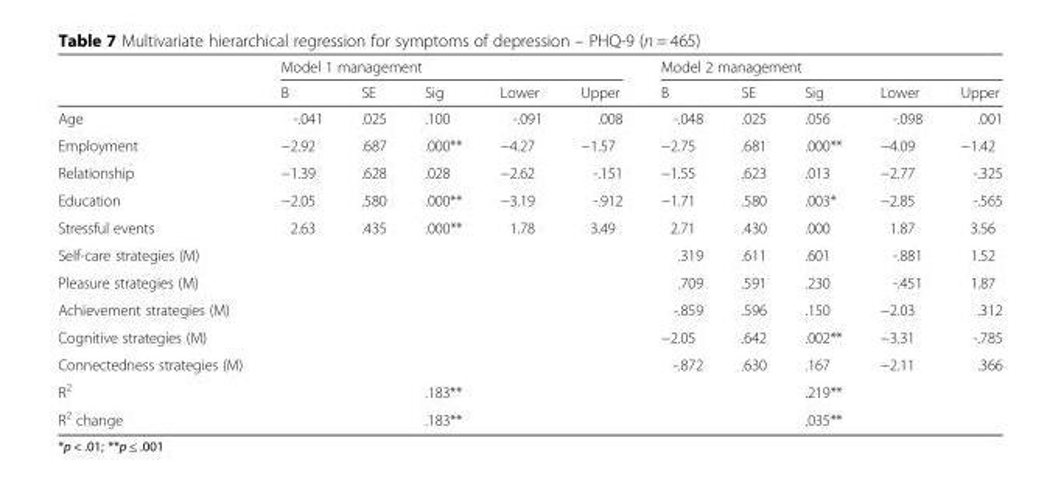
<table><thead><tr><td rowspan="2"></td><td colspan="5">Model 1 management</td><td colspan="5">Model 2 management</td></tr><tr><td>B</td><td>SE</td><td>Sig</td><td>Lower</td><td>Upper</td><td>B</td><td>SE</td><td>Sig</td><td>Lower</td><td>Upper</td></tr></thead><tbody><tr><td>Age</td><td>-.041</td><td>.025</td><td>.100</td><td>-.091</td><td>.008</td><td>-.048</td><td>.025</td><td>.056</td><td>-.098</td><td>.001</td></tr><tr><td>Employment</td><td>−2.92</td><td>.687</td><td>.000**</td><td>−4.27</td><td>−1.57</td><td>−2.75</td><td>.681</td><td>.000**</td><td>−4.09</td><td>−1.42</td></tr><tr><td>Relationship</td><td>−1.39</td><td>.628</td><td>.028</td><td>−2.62</td><td>-.151</td><td>−1.55</td><td>.623</td><td>.013</td><td>−2.77</td><td>-.325</td></tr><tr><td>Education</td><td>−2.05</td><td>.580</td><td>.000**</td><td>−3.19</td><td>-.912</td><td>−1.71</td><td>.580</td><td>.003*</td><td>−2.85</td><td>-.565</td></tr><tr><td>Stressful events</td><td>2.63</td><td>.435</td><td>.000**</td><td>1.78</td><td>3.49</td><td>2.71</td><td>.430</td><td>.000</td><td>1.87</td><td>3.56</td></tr><tr><td>Self-care strategies (M)</td><td></td><td></td><td></td><td></td><td></td><td>.319</td><td>.611</td><td>.601</td><td>-.881</td><td>1.52</td></tr><tr><td>Pleasure strategies (M)</td><td></td><td></td><td></td><td></td><td></td><td>.709</td><td>.591</td><td>.230</td><td>-.451</td><td>1.87</td></tr><tr><td>Achievement strategies (M)</td><td></td><td></td><td></td><td></td><td></td><td>-.859</td><td>.596</td><td>.150</td><td>−2.03</td><td>.312</td></tr><tr><td>Cognitive strategies (M)</td><td></td><td></td><td></td><td></td><td></td><td>−2.05</td><td>.642</td><td>.002**</td><td>−3.31</td><td>-.785</td></tr><tr><td>Connectedness strategies (M)</td><td></td><td></td><td></td><td></td><td></td><td>-.872</td><td>.630</td><td>.167</td><td>−2.11</td><td>.366</td></tr><tr><td>R<sup>2</sup></td><td></td><td></td><td>.183**</td><td></td><td></td><td></td><td></td><td>.219**</td><td></td><td></td></tr><tr><td>R<sup>2</sup> change</td><td></td><td></td><td>.183**</td><td></td><td></td><td></td><td></td><td>.035**</td><td></td><td></td></tr></tbody></table>